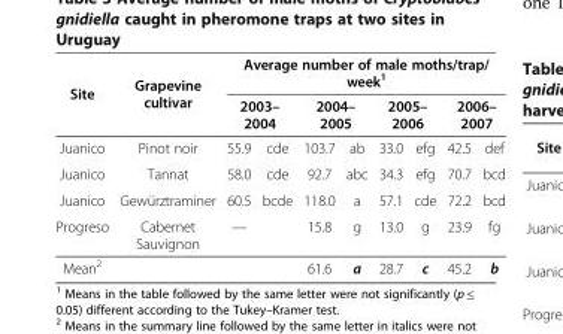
<table><thead><tr><td rowspan="3">Site Juanico</td><td rowspan="3">Grapevine cultivar Pinot noir</td><td colspan="8">Average number of male moths/trap/ week<sup>1</sup></td></tr><tr><td colspan="2">2003– 2004</td><td colspan="2">2004– 2005</td><td colspan="2">2005– 2006</td><td colspan="2">2006– 2007</td></tr><tr><td>55.9</td><td>cde</td><td>103.7</td><td>ab</td><td>33.0</td><td>efg</td><td>42.5</td><td>def</td></tr></thead><tbody><tr><td>Juanico</td><td>Tannat</td><td>58.0</td><td>cde</td><td>92.7</td><td>abc</td><td>34.3</td><td>efg</td><td>70.7</td><td>bcd</td></tr><tr><td>Juanico</td><td>Gewürztraminer</td><td>60.5</td><td>bcde</td><td>118.0</td><td>a</td><td>57.1</td><td>cde</td><td>72.2</td><td>bcd</td></tr><tr><td>Progreso</td><td>Cabernet Sauvignon</td><td>—</td><td></td><td>15.8</td><td>g</td><td>13.0</td><td>g</td><td>23.9</td><td>fg</td></tr><tr><td>Mean<sup>2</sup></td><td></td><td></td><td></td><td>61.6</td><td>a</td><td>28.7</td><td>c</td><td>45.2</td><td>b</td></tr></tbody></table>